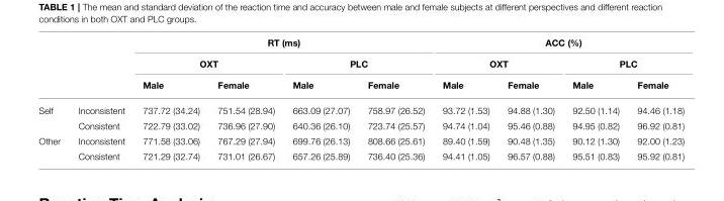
<table><thead><tr><td rowspan="3"></td><td rowspan="3"></td><td colspan="4">RT (ms)</td><td colspan="4">ACC (%)</td></tr><tr><td colspan="2">OXT</td><td colspan="2">PLC</td><td colspan="2">OXT</td><td colspan="2">PLC</td></tr><tr><td>Male</td><td>Female</td><td>Male</td><td>Female</td><td>Male</td><td>Female</td><td>Male</td><td>Female</td></tr></thead><tbody><tr><td rowspan="2">Self</td><td>Inconsistent</td><td>737.72 (34.24)</td><td>751.54 (28.94)</td><td>663.09 (27.07)</td><td>758.97 (26.52)</td><td>93.72 (1.53)</td><td>94.88 (1.30)</td><td>92.50 (1.14)</td><td>94.46 (1.18)</td></tr><tr><td>Consistent</td><td>722.79 (33.02)</td><td>736.96 (27.90)</td><td>640.36 (26.10)</td><td>723.74 (25.57)</td><td>94.74 (1.04)</td><td>95.46 (0.88)</td><td>94.95 (0.82)</td><td>96.92 (0.81)</td></tr><tr><td rowspan="2">Other</td><td>Inconsistent</td><td>771.58 (33.06)</td><td>767.29 (27.94)</td><td>699.76 (26.13)</td><td>808.66 (25.61)</td><td>89.40 (1.59)</td><td>90.48 (1.35)</td><td>90.12 (1.30)</td><td>92.00 (1.23)</td></tr><tr><td>Consistent</td><td>721.29 (32.74)</td><td>731.01 (26.67)</td><td>657.26 (25.89)</td><td>736.40 (25.36)</td><td>94.41 (1.05)</td><td>96.57 (0.88)</td><td>95.51 (0.83)</td><td>95.92 (0.81)</td></tr></tbody></table>